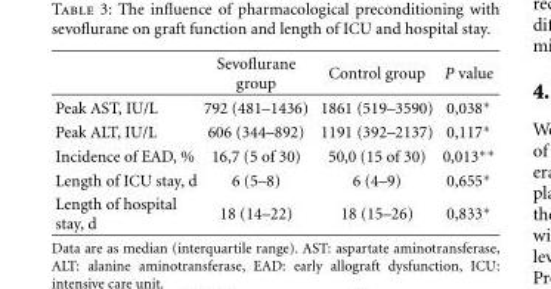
<table><thead><tr><td></td><td>Sevoflurane group</td><td>Control group</td><td>P value</td></tr></thead><tbody><tr><td>Peak AST, IU/L</td><td>792 (481–1436)</td><td>1861 (519–3590)</td><td>0,038∗</td></tr><tr><td>Peak ALT, IU/L</td><td>606 (344–892)</td><td>1191 (392–2137)</td><td>0,117∗</td></tr><tr><td>Incidence of EAD, %</td><td>16,7 (5 of 30)</td><td>50,0 (15 of 30)</td><td>0,013∗∗</td></tr><tr><td>Length of ICU stay, d</td><td>6 (5–8)</td><td>6 (4–9)</td><td>0,655∗</td></tr><tr><td>Length of hospital stay, d</td><td>18 (14–22)</td><td>18 (15–26)</td><td>0,833∗</td></tr></tbody></table>